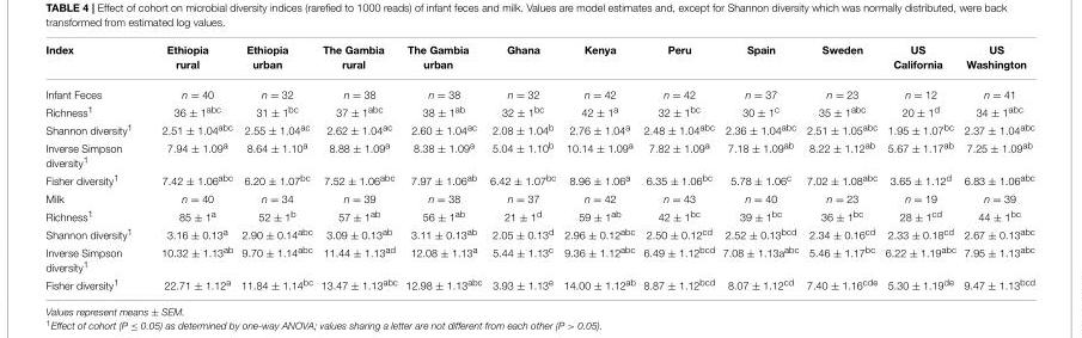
<table><thead><tr><td>Index</td><td>Ethiopia rural</td><td>Ethiopia urban</td><td>The Gambia rural</td><td>The Gambia urban</td><td>Ghana</td><td>Kenya</td><td>Peru</td><td>Spain</td><td>Sweden</td><td>US California</td><td>US Washington</td></tr></thead><tbody><tr><td>Infant Feces</td><td>n = 40</td><td>n = 32</td><td>n = 38</td><td>n = 38</td><td>n = 32</td><td>n = 42</td><td>n = 42</td><td>n = 37</td><td>n = 23</td><td>n = 12</td><td>n = 41</td></tr><tr><td>Richness<sup>1</sup></td><td>36 ± 1<sup>abc</sup></td><td>31 ± 1<sup>bc</sup></td><td>37 ± 1<sup>abc</sup></td><td>38 ± 1<sup>ab</sup></td><td>32 ± 1<sup>bc</sup></td><td>42 ± 1<sup>a</sup></td><td>32 ± 1<sup>bc</sup></td><td>30 ± 1<sup>c</sup></td><td>35 ± 1<sup>abc</sup></td><td>20 ± 1<sup>d</sup></td><td>34 ± 1<sup>abc</sup></td></tr><tr><td>Shannon diversity<sup>1</sup></td><td>2.51 ± 1.04<sup>abc</sup></td><td>2.55 ± 1.04<sup>ac</sup></td><td>2.62 ± 1.04<sup>ac</sup></td><td>2.60 ± 1.04<sup>ac</sup></td><td>2.08 ± 1.04<sup>b</sup></td><td>2.76 ± 1.04<sup>a</sup></td><td>2.48 ± 1.04<sup>abc</sup></td><td>2.36 ± 1.04<sup>abc</sup></td><td>2.51 ± 1.05<sup>abc</sup></td><td>1.95 ± 1.07<sup>bc</sup></td><td>2.37 ± 1.04<sup>abc</sup></td></tr><tr><td>Inverse Simpson diversity<sup>1</sup></td><td>7.94 ± 1.09<sup>a</sup></td><td>8.64 ± 1.10<sup>a</sup></td><td>8.88 ± 1.09<sup>a</sup></td><td>8.38 ± 1.09<sup>a</sup></td><td>5.04 ± 1.10<sup>b</sup></td><td>10.14 ± 1.09<sup>a</sup></td><td>7.82 ± 1.09<sup>a</sup></td><td>7.18 ± 1.09<sup>ab</sup></td><td>8.22 ± 1.12<sup>ab</sup></td><td>5.67 ± 1.17<sup>ab</sup></td><td>7.25 ± 1.09<sup>ab</sup></td></tr><tr><td>Fisher diversity<sup>1</sup></td><td>7.42 ± 1.06<sup>abc</sup></td><td>6.20 ± 1.07<sup>bc</sup></td><td>7.52 ± 1.06<sup>abc</sup></td><td>7.97 ± 1.06<sup>ab</sup></td><td>6.42 ± 1.07<sup>bc</sup></td><td>8.96 ± 1.06<sup>a</sup></td><td>6.35 ± 1.06<sup>bc</sup></td><td>5.78 ± 1.06<sup>c</sup></td><td>7.02 ± 1.08<sup>abc</sup></td><td>3.65 ± 1.12<sup>d</sup></td><td>6.83 ± 1.06<sup>abc</sup></td></tr><tr><td>Milk</td><td>n = 40</td><td>n = 34</td><td>n = 39</td><td>n = 38</td><td>n = 37</td><td>n = 42</td><td>n = 43</td><td>n = 40</td><td>n = 23</td><td>n = 19</td><td>n = 39</td></tr><tr><td>Richness<sup>1</sup></td><td>85 ± 1<sup>a</sup></td><td>52 ± 1<sup>b</sup></td><td>57 ± 1<sup>ab</sup></td><td>56 ± 1<sup>ab</sup></td><td>21 ± 1<sup>d</sup></td><td>59 ± 1<sup>ab</sup></td><td>42 ± 1<sup>bc</sup></td><td>39 ± 1<sup>bc</sup></td><td>36 ± 1<sup>bc</sup></td><td>28 ± 1<sup>cd</sup></td><td>44 ± 1<sup>bc</sup></td></tr><tr><td>Shannon diversity<sup>1</sup></td><td>3.16 ± 0.13<sup>a</sup></td><td>2.90 ± 0.14<sup>abc</sup></td><td>3.09 ± 0.13<sup>ab</sup></td><td>3.11 ± 0.13<sup>ab</sup></td><td>2.05 ± 0.13<sup>d</sup></td><td>2.96 ± 0.12<sup>abc</sup></td><td>2.50 ± 0.12<sup>cd</sup></td><td>2.52 ± 0.13<sup>bcd</sup></td><td>2.34 ± 0.16<sup>cd</sup></td><td>2.33 ± 0.18<sup>cd</sup></td><td>2.67 ± 0.13<sup>abc</sup></td></tr><tr><td>Inverse Simpson diversity<sup>1</sup></td><td>10.32 ± 1.13<sup>ab</sup></td><td>9.70 ± 1.14<sup>abc</sup></td><td>11.44 ± 1.13<sup>ad</sup></td><td>12.08 ± 1.13<sup>a</sup></td><td>5.44 ± 1.13<sup>c</sup></td><td>9.36 ± 1.12<sup>abc</sup></td><td>6.49 ± 1.12<sup>bcd</sup></td><td>7.08 ± 1.13a<sup>abc</sup></td><td>5.46 ± 1.17<sup>bc</sup></td><td>6.22 ± 1.19<sup>abc</sup></td><td>7.95 ± 1.13<sup>abc</sup></td></tr><tr><td>Fisher diversity<sup>1</sup></td><td>22.71 ± 1.12<sup>a</sup></td><td>11.84 ± 1.14<sup>bc</sup></td><td>13.47 ± 1.13<sup>abc</sup></td><td>12.98 ± 1.13<sup>abc</sup></td><td>3.93 ± 1.13<sup>e</sup></td><td>14.00 ± 1.12<sup>ab</sup></td><td>8.87 ± 1.12<sup>bcd</sup></td><td>8.07 ± 1.12<sup>cd</sup></td><td>7.40 ± 1.16<sup>cde</sup></td><td>5.30 ± 1.19<sup>de</sup></td><td>9.47 ± 1.13<sup>bcd</sup></td></tr></tbody></table>